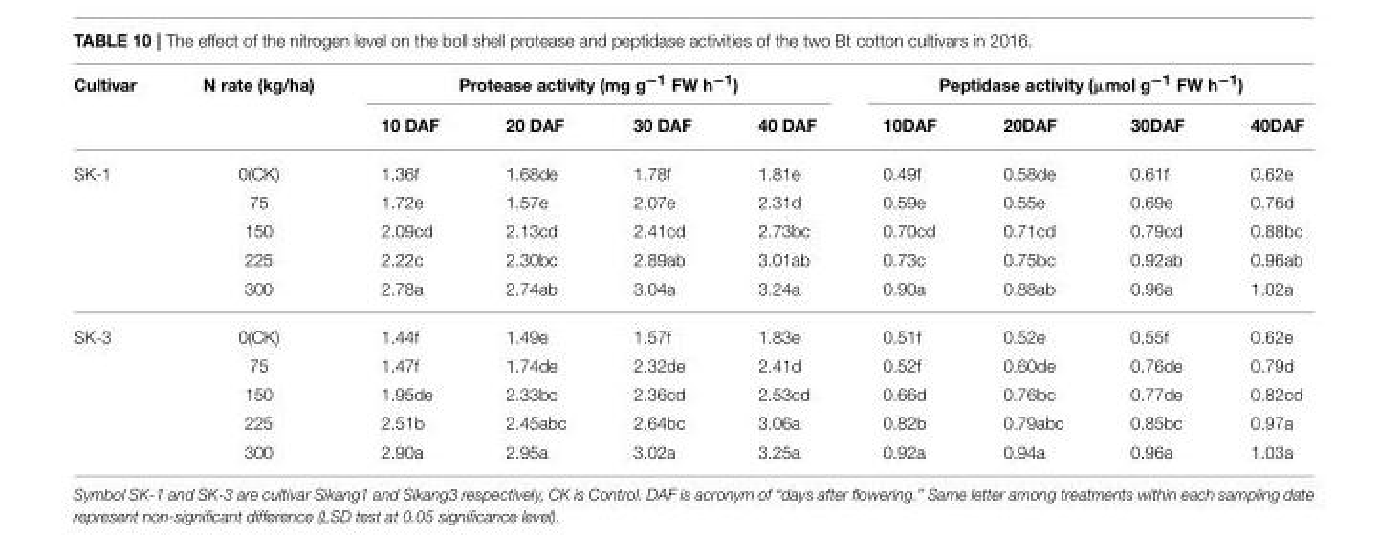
<table><thead><tr><td rowspan="2">Cultivar</td><td rowspan="2">N rate (kg/ha)</td><td colspan="4">Protease activity (mg g<sup>−1</sup> FW h<sup>−1</sup>)</td><td colspan="4">Peptidase activity (µmol g<sup>−1</sup> FW h<sup>−1</sup>)</td></tr><tr><td>10 DAF</td><td>20 DAF</td><td>30 DAF</td><td>40 DAF</td><td>10DAF</td><td>20DAF</td><td>30DAF</td><td>40DAF</td></tr></thead><tbody><tr><td rowspan="5">SK-1</td><td>0(CK)</td><td>1.36f</td><td>1.68de</td><td>1.78f</td><td>1.81e</td><td>0.49f</td><td>0.58de</td><td>0.61f</td><td>0.62e</td></tr><tr><td>75</td><td>1.72e</td><td>1.57e</td><td>2.07e</td><td>2.31d</td><td>0.59e</td><td>0.55e</td><td>0.69e</td><td>0.76d</td></tr><tr><td>150</td><td>2.09cd</td><td>2.13cd</td><td>2.41cd</td><td>2.73bc</td><td>0.70cd</td><td>0.71cd</td><td>0.79cd</td><td>0.88bc</td></tr><tr><td>225</td><td>2.22c</td><td>2.30bc</td><td>2.89ab</td><td>3.01ab</td><td>0.73c</td><td>0.75bc</td><td>0.92ab</td><td>0.96ab</td></tr><tr><td>300</td><td>2.78a</td><td>2.74ab</td><td>3.04a</td><td>3.24a</td><td>0.90a</td><td>0.88ab</td><td>0.96a</td><td>1.02a</td></tr><tr><td rowspan="5">SK-3</td><td>0(CK)</td><td>1.44f</td><td>1.49e</td><td>1.57f</td><td>1.83e</td><td>0.51f</td><td>0.52e</td><td>0.55f</td><td>0.62e</td></tr><tr><td>75</td><td>1.47f</td><td>1.74de</td><td>2.32de</td><td>2.41d</td><td>0.52f</td><td>0.60de</td><td>0.76de</td><td>0.79d</td></tr><tr><td>150</td><td>1.95de</td><td>2.33bc</td><td>2.36cd</td><td>2.53cd</td><td>0.66d</td><td>0.76bc</td><td>0.77de</td><td>0.82cd</td></tr><tr><td>225</td><td>2.51b</td><td>2.45abc</td><td>2.64bc</td><td>3.06a</td><td>0.82b</td><td>0.79abc</td><td>0.85bc</td><td>0.97a</td></tr><tr><td>300</td><td>2.90a</td><td>2.95a</td><td>3.02a</td><td>3.25a</td><td>0.92a</td><td>0.94a</td><td>0.96a</td><td>1.03a</td></tr></tbody></table>